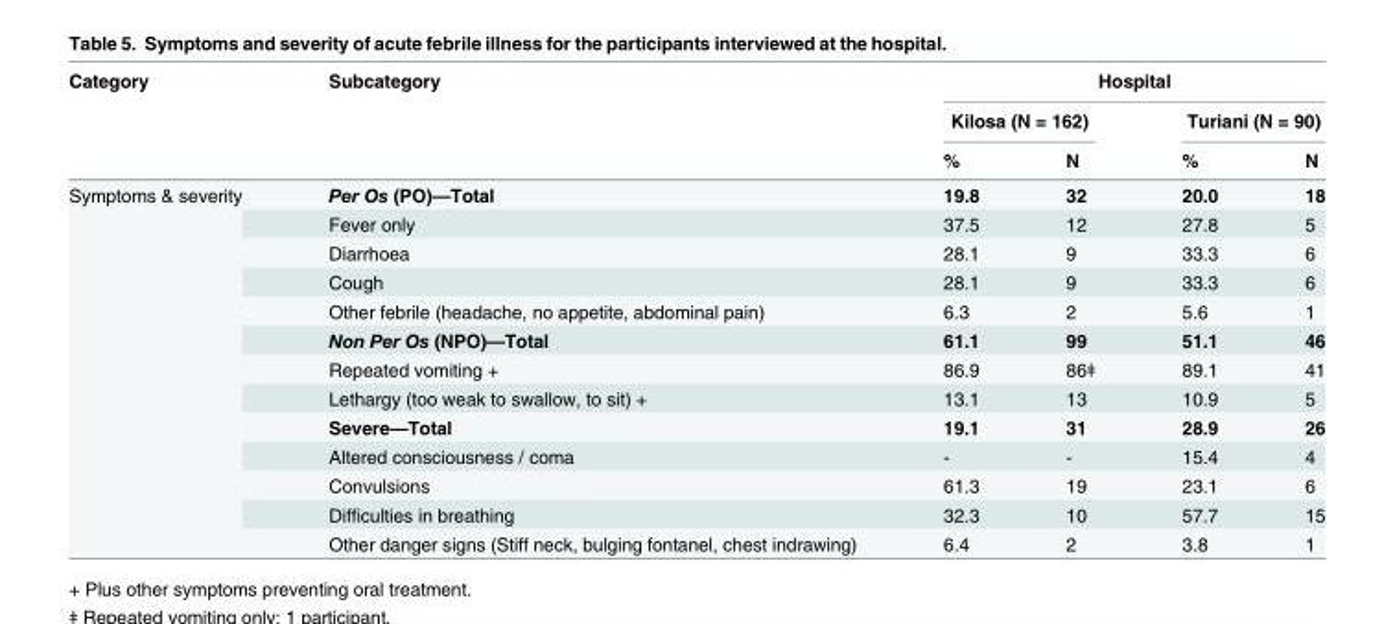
<table><thead><tr><td rowspan="3">Category</td><td rowspan="3">Subcategory</td><td colspan="4">Hospital</td></tr><tr><td colspan="2">Kilosa (N = 162)</td><td colspan="2">Turiani (N = 90)</td></tr><tr><td>%</td><td>N</td><td>%</td><td>N</td></tr></thead><tbody><tr><td rowspan="13">Symptoms &amp; severity</td><td>Per Os (PO)—Total</td><td>19.8</td><td>32</td><td>20.0</td><td>18</td></tr><tr><td>Fever only</td><td>37.5</td><td>12</td><td>27.8</td><td>5</td></tr><tr><td>Diarrhoea</td><td>28.1</td><td>9</td><td>33.3</td><td>6</td></tr><tr><td>Cough</td><td>28.1</td><td>9</td><td>33.3</td><td>6</td></tr><tr><td>Other febrile (headache, no appetite, abdominal pain)</td><td>6.3</td><td>2</td><td>5.6</td><td>1</td></tr><tr><td>Non Per Os (NPO)—Total</td><td>61.1</td><td>99</td><td>51.1</td><td>46</td></tr><tr><td>Repeated vomiting +</td><td>86.9</td><td>86ǂ</td><td>89.1</td><td>41</td></tr><tr><td>Lethargy (too weak to swallow, to sit) +</td><td>13.1</td><td>13</td><td>10.9</td><td>5</td></tr><tr><td>Severe—Total</td><td>19.1</td><td>31</td><td>28.9</td><td>26</td></tr><tr><td>Altered consciousness / coma</td><td>-</td><td>-</td><td>15.4</td><td>4</td></tr><tr><td>Convulsions</td><td>61.3</td><td>19</td><td>23.1</td><td>6</td></tr><tr><td>Difficulties in breathing</td><td>32.3</td><td>10</td><td>57.7</td><td>15</td></tr><tr><td>Other danger signs (Stiff neck, bulging fontanel, chest indrawing)</td><td>6.4</td><td>2</td><td>3.8</td><td>1</td></tr></tbody></table>